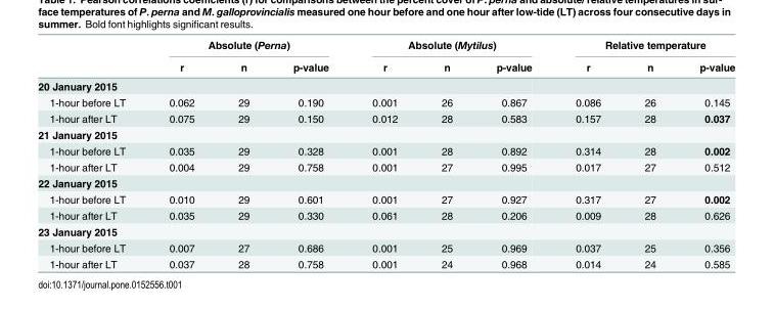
<table><thead><tr><td rowspan="2"></td><td colspan="3">Absolute (Perna)</td><td colspan="3">Absolute (Mytilus)</td><td colspan="3">Relative temperature</td></tr><tr><td>r</td><td>n</td><td>p-value</td><td>r</td><td>n</td><td>p-value</td><td>r</td><td>n</td><td>p-value</td></tr></thead><tbody><tr><td colspan="10">20 January 2015</td></tr><tr><td>1-hour before LT</td><td>0.062</td><td>29</td><td>0.190</td><td>0.001</td><td>26</td><td>0.867</td><td>0.086</td><td>26</td><td>0.145</td></tr><tr><td>1-hour after LT</td><td>0.075</td><td>29</td><td>0.150</td><td>0.012</td><td>28</td><td>0.583</td><td>0.157</td><td>28</td><td>0.037</td></tr><tr><td colspan="10">21 January 2015</td></tr><tr><td>1-hour before LT</td><td>0.035</td><td>29</td><td>0.328</td><td>0.001</td><td>28</td><td>0.892</td><td>0.314</td><td>28</td><td>0.002</td></tr><tr><td>1-hour after LT</td><td>0.004</td><td>29</td><td>0.758</td><td>0.001</td><td>27</td><td>0.995</td><td>0.017</td><td>27</td><td>0.512</td></tr><tr><td colspan="10">22 January 2015</td></tr><tr><td>1-hour before LT</td><td>0.010</td><td>29</td><td>0.601</td><td>0.001</td><td>27</td><td>0.927</td><td>0.317</td><td>27</td><td>0.002</td></tr><tr><td>1-hour after LT</td><td>0.035</td><td>29</td><td>0.330</td><td>0.061</td><td>28</td><td>0.206</td><td>0.009</td><td>28</td><td>0.626</td></tr><tr><td colspan="10">23 January 2015</td></tr><tr><td>1-hour before LT</td><td>0.007</td><td>27</td><td>0.686</td><td>0.001</td><td>25</td><td>0.969</td><td>0.037</td><td>25</td><td>0.356</td></tr><tr><td>1-hour after LT</td><td>0.037</td><td>28</td><td>0.758</td><td>0.001</td><td>24</td><td>0.968</td><td>0.014</td><td>24</td><td>0.585</td></tr></tbody></table>